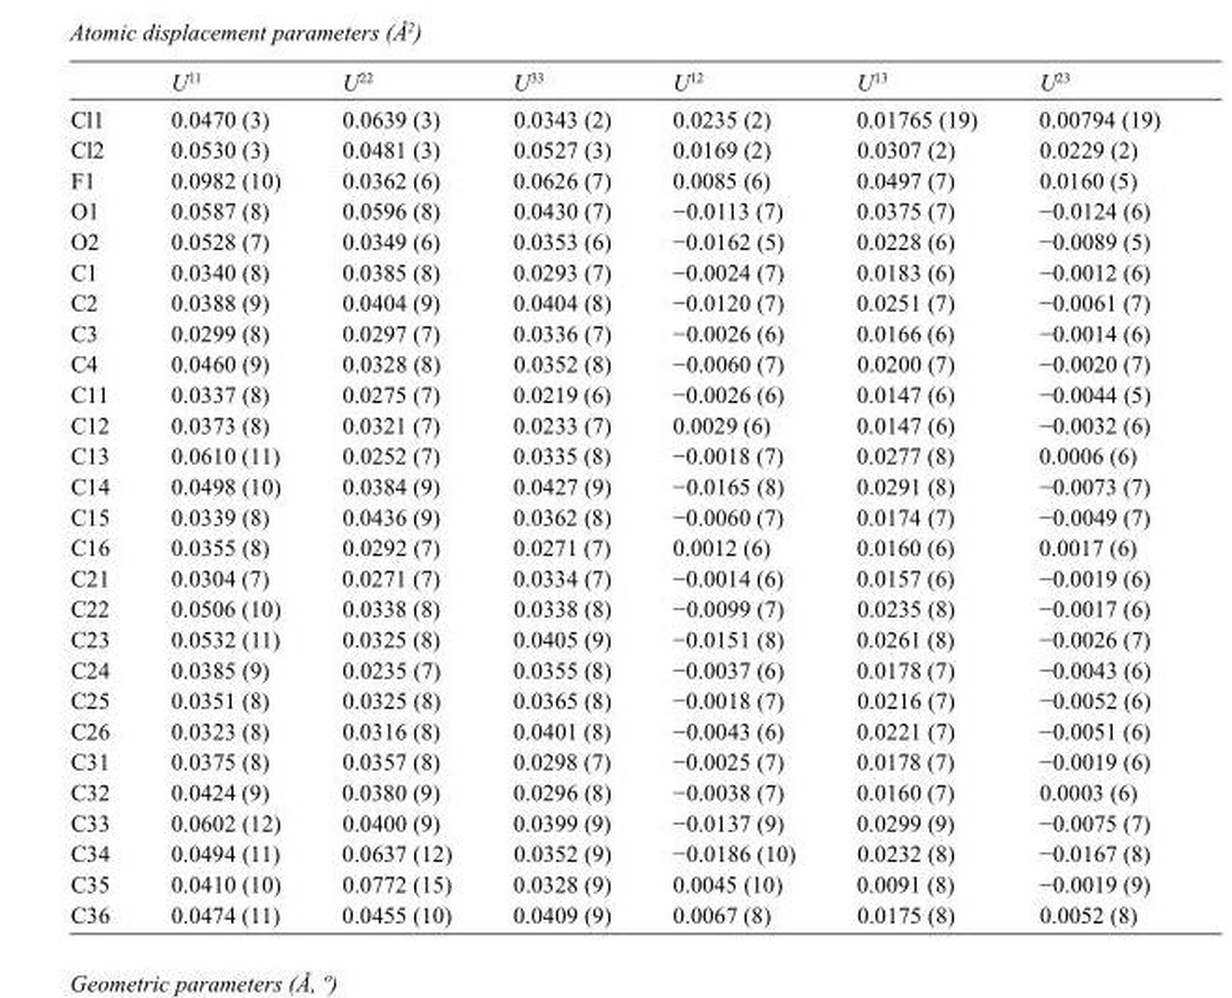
<table><thead><tr><td></td><td>U<sup>11</sup></td><td>U<sup>22</sup></td><td>U<sup>33</sup></td><td>U<sup>12</sup></td><td>U<sup>13</sup></td><td>U<sup>23</sup></td></tr></thead><tbody><tr><td>Cl1</td><td>0.0470 (3)</td><td>0.0639 (3)</td><td>0.0343 (2)</td><td>0.0235 (2)</td><td>0.01765 (19)</td><td>0.00794 (19)</td></tr><tr><td>Cl2</td><td>0.0530 (3)</td><td>0.0481 (3)</td><td>0.0527 (3)</td><td>0.0169 (2)</td><td>0.0307 (2)</td><td>0.0229 (2)</td></tr><tr><td>F1</td><td>0.0982 (10)</td><td>0.0362 (6)</td><td>0.0626 (7)</td><td>0.0085 (6)</td><td>0.0497 (7)</td><td>0.0160 (5)</td></tr><tr><td>O1</td><td>0.0587 (8)</td><td>0.0596 (8)</td><td>0.0430 (7)</td><td>−0.0113 (7)</td><td>0.0375 (7)</td><td>−0.0124 (6)</td></tr><tr><td>O2</td><td>0.0528 (7)</td><td>0.0349 (6)</td><td>0.0353 (6)</td><td>−0.0162 (5)</td><td>0.0228 (6)</td><td>−0.0089 (5)</td></tr><tr><td>C1</td><td>0.0340 (8)</td><td>0.0385 (8)</td><td>0.0293 (7)</td><td>−0.0024 (7)</td><td>0.0183 (6)</td><td>−0.0012 (6)</td></tr><tr><td>C2</td><td>0.0388 (9)</td><td>0.0404 (9)</td><td>0.0404 (8)</td><td>−0.0120 (7)</td><td>0.0251 (7)</td><td>−0.0061 (7)</td></tr><tr><td>C3</td><td>0.0299 (8)</td><td>0.0297 (7)</td><td>0.0336 (7)</td><td>−0.0026 (6)</td><td>0.0166 (6)</td><td>−0.0014 (6)</td></tr><tr><td>C4</td><td>0.0460 (9)</td><td>0.0328 (8)</td><td>0.0352 (8)</td><td>−0.0060 (7)</td><td>0.0200 (7)</td><td>−0.0020 (7)</td></tr><tr><td>C11</td><td>0.0337 (8)</td><td>0.0275 (7)</td><td>0.0219 (6)</td><td>−0.0026 (6)</td><td>0.0147 (6)</td><td>−0.0044 (5)</td></tr><tr><td>C12</td><td>0.0373 (8)</td><td>0.0321 (7)</td><td>0.0233 (7)</td><td>0.0029 (6)</td><td>0.0147 (6)</td><td>−0.0032 (6)</td></tr><tr><td>C13</td><td>0.0610 (11)</td><td>0.0252 (7)</td><td>0.0335 (8)</td><td>−0.0018 (7)</td><td>0.0277 (8)</td><td>0.0006 (6)</td></tr><tr><td>C14</td><td>0.0498 (10)</td><td>0.0384 (9)</td><td>0.0427 (9)</td><td>−0.0165 (8)</td><td>0.0291 (8)</td><td>−0.0073 (7)</td></tr><tr><td>C15</td><td>0.0339 (8)</td><td>0.0436 (9)</td><td>0.0362 (8)</td><td>−0.0060 (7)</td><td>0.0174 (7)</td><td>−0.0049 (7)</td></tr><tr><td>C16</td><td>0.0355 (8)</td><td>0.0292 (7)</td><td>0.0271 (7)</td><td>0.0012 (6)</td><td>0.0160 (6)</td><td>0.0017 (6)</td></tr><tr><td>C21</td><td>0.0304 (7)</td><td>0.0271 (7)</td><td>0.0334 (7)</td><td>−0.0014 (6)</td><td>0.0157 (6)</td><td>−0.0019 (6)</td></tr><tr><td>C22</td><td>0.0506 (10)</td><td>0.0338 (8)</td><td>0.0338 (8)</td><td>−0.0099 (7)</td><td>0.0235 (8)</td><td>−0.0017 (6)</td></tr><tr><td>C23</td><td>0.0532 (11)</td><td>0.0325 (8)</td><td>0.0405 (9)</td><td>−0.0151 (8)</td><td>0.0261 (8)</td><td>−0.0026 (7)</td></tr><tr><td>C24</td><td>0.0385 (9)</td><td>0.0235 (7)</td><td>0.0355 (8)</td><td>−0.0037 (6)</td><td>0.0178 (7)</td><td>−0.0043 (6)</td></tr><tr><td>C25</td><td>0.0351 (8)</td><td>0.0325 (8)</td><td>0.0365 (8)</td><td>−0.0018 (7)</td><td>0.0216 (7)</td><td>−0.0052 (6)</td></tr><tr><td>C26</td><td>0.0323 (8)</td><td>0.0316 (8)</td><td>0.0401 (8)</td><td>−0.0043 (6)</td><td>0.0221 (7)</td><td>−0.0051 (6)</td></tr><tr><td>C31</td><td>0.0375 (8)</td><td>0.0357 (8)</td><td>0.0298 (7)</td><td>−0.0025 (7)</td><td>0.0178 (7)</td><td>−0.0019 (6)</td></tr><tr><td>C32</td><td>0.0424 (9)</td><td>0.0380 (9)</td><td>0.0296 (8)</td><td>−0.0038 (7)</td><td>0.0160 (7)</td><td>0.0003 (6)</td></tr><tr><td>C33</td><td>0.0602 (12)</td><td>0.0400 (9)</td><td>0.0399 (9)</td><td>−0.0137 (9)</td><td>0.0299 (9)</td><td>−0.0075 (7)</td></tr><tr><td>C34</td><td>0.0494 (11)</td><td>0.0637 (12)</td><td>0.0352 (9)</td><td>−0.0186 (10)</td><td>0.0232 (8)</td><td>−0.0167 (8)</td></tr><tr><td>C35</td><td>0.0410 (10)</td><td>0.0772 (15)</td><td>0.0328 (9)</td><td>0.0045 (10)</td><td>0.0091 (8)</td><td>−0.0019 (9)</td></tr><tr><td>C36</td><td>0.0474 (11)</td><td>0.0455 (10)</td><td>0.0409 (9)</td><td>0.0067 (8)</td><td>0.0175 (8)</td><td>0.0052 (8)</td></tr></tbody></table>